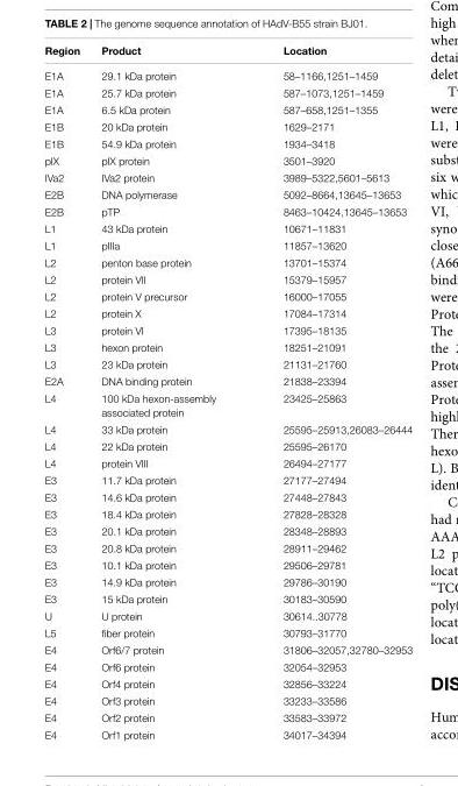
<table><thead><tr><td>Region</td><td>Product</td><td>Location</td></tr></thead><tbody><tr><td>E1A</td><td>29.1 kDa protein</td><td>58–1166,1251–1459</td></tr><tr><td>E1A</td><td>25.7 kDa protein</td><td>587–1073,1251–1459</td></tr><tr><td>E1A</td><td>6.5 kDa protein</td><td>587–658,1251–1355</td></tr><tr><td>E1B</td><td>20 kDa protein</td><td>1629–2171</td></tr><tr><td>E1B</td><td>54.9 kDa protein</td><td>1934–3418</td></tr><tr><td>pIX</td><td>pIX protein</td><td>3501–3920</td></tr><tr><td>IVa2</td><td>IVa2 protein</td><td>3989–5322,5601–5613</td></tr><tr><td>E2B</td><td>DNA polymerase</td><td>5092–8664,13645–13653</td></tr><tr><td>E2B</td><td>pTP</td><td>8463–10424,13645–13653</td></tr><tr><td>L1</td><td>43 kDa protein</td><td>10671–11831</td></tr><tr><td>L1</td><td>pIIIa</td><td>11857–13620</td></tr><tr><td>L2</td><td>penton base protein</td><td>13701–15374</td></tr><tr><td>L2</td><td>protein VII</td><td>15379–15957</td></tr><tr><td>L2</td><td>protein V precursor</td><td>16000–17055</td></tr><tr><td>L2</td><td>protein X</td><td>17084–17314</td></tr><tr><td>L3</td><td>protein VI</td><td>17395–18135</td></tr><tr><td>L3</td><td>hexon protein</td><td>18251–21091</td></tr><tr><td>L3</td><td>23 kDa protein</td><td>21131–21760</td></tr><tr><td>E2A</td><td>DNA binding protein</td><td>21838–23394</td></tr><tr><td>L4</td><td>100 kDa hexon-assembly associated protein</td><td>23425–25863</td></tr><tr><td>L4</td><td>33 kDa protein</td><td>25595–25913,26083–26444</td></tr><tr><td>L4</td><td>22 kDa protein</td><td>25595–26170</td></tr><tr><td>L4</td><td>protein VIII</td><td>26494–27177</td></tr><tr><td>E3</td><td>11.7 kDa protein</td><td>27177–27494</td></tr><tr><td>E3</td><td>14.6 kDa protein</td><td>27448–27843</td></tr><tr><td>E3</td><td>18.4 kDa protein</td><td>27828–28328</td></tr><tr><td>E3</td><td>20.1 kDa protein</td><td>28348–28893</td></tr><tr><td>E3</td><td>20.8 kDa protein</td><td>28911–29462</td></tr><tr><td>E3</td><td>10.1 kDa protein</td><td>29506–29781</td></tr><tr><td>E3</td><td>14.9 kDa protein</td><td>29786–30190</td></tr><tr><td>E3</td><td>15 kDa protein</td><td>30183–30590</td></tr><tr><td>U</td><td>U protein</td><td>30614..30778</td></tr><tr><td>L5</td><td>fiber protein</td><td>30793–31770</td></tr><tr><td>E4</td><td>Orf6/7 protein</td><td>31806–32057,32780–32953</td></tr><tr><td>E4</td><td>Orf6 protein</td><td>32054–32953</td></tr><tr><td>E4</td><td>Orf4 protein</td><td>32856–33224</td></tr><tr><td>E4</td><td>Orf3 protein</td><td>33233–33586</td></tr><tr><td>E4</td><td>Orf2 protein</td><td>33583–33972</td></tr><tr><td>E4</td><td>Orf1 protein</td><td>34017–34394</td></tr></tbody></table>